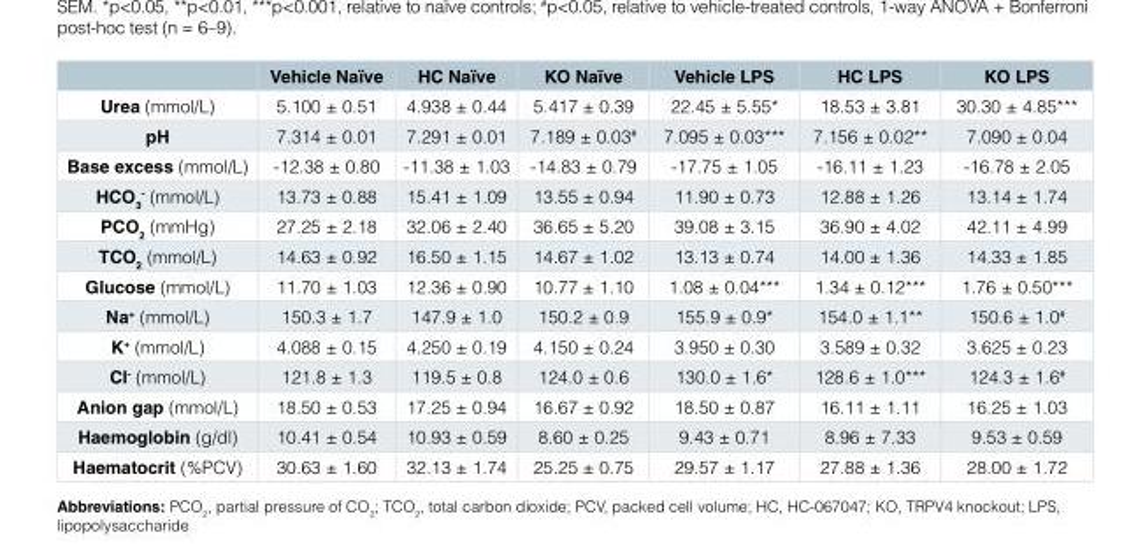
<table><thead><tr><td></td><td>Vehicle Naïve</td><td>HC Naïve</td><td>KO Naïve</td><td>Vehicle LPS</td><td>HC LPS</td><td>KO LPS</td></tr></thead><tbody><tr><td>Urea (mmol/L)</td><td>5.100 ± 0.51</td><td>4.938 ± 0.44</td><td>5.417 ± 0.39</td><td>22.45 ± 5.55*</td><td>18.53 ± 3.81</td><td>30.30 ± 4.85***</td></tr><tr><td>pH</td><td>7.314 ± 0.01</td><td>7.291 ± 0.01</td><td>7.189 ± 0.03<sup>#</sup></td><td>7.095 ± 0.03***</td><td>7.156 ± 0.02**</td><td>7.090 ± 0.04</td></tr><tr><td>Base excess (mmol/L)</td><td>-12.38 ± 0.80</td><td>-11.38 ± 1.03</td><td>-14.83 ± 0.79</td><td>-17.75 ± 1.05</td><td>-16.11 ± 1.23</td><td>-16.78 ± 2.05</td></tr><tr><td>HCO<sub>3</sub> <sup>-</sup> (mmol/L)</td><td>13.73 ± 0.88</td><td>15.41 ± 1.09</td><td>13.55 ± 0.94</td><td>11.90 ± 0.73</td><td>12.88 ± 1.26</td><td>13.14 ± 1.74</td></tr><tr><td>PCO<sub>2</sub> (mmHg)</td><td>27.25 ± 2.18</td><td>32.06 ± 2.40</td><td>36.65 ± 5.20</td><td>39.08 ± 3.15</td><td>36.90 ± 4.02</td><td>42.11 ± 4.99</td></tr><tr><td>TCO<sub>2</sub> (mmol/L)</td><td>14.63 ± 0.92</td><td>16.50 ± 1.15</td><td>14.67 ± 1.02</td><td>13.13 ± 0.74</td><td>14.00 ± 1.36</td><td>14.33 ± 1.85</td></tr><tr><td>Glucose (mmol/L)</td><td>11.70 ± 1.03</td><td>12.36 ± 0.90</td><td>10.77 ± 1.10</td><td>1.08 ± 0.04***</td><td>1.34 ± 0.12***</td><td>1.76 ± 0.50***</td></tr><tr><td>Na<sup>+</sup> (mmol/L)</td><td>150.3 ± 1.7</td><td>147.9 ± 1.0</td><td>150.2 ± 0.9</td><td>155.9 ± 0.9*</td><td>154.0 ± 1.1**</td><td>150.6 ± 1.0<sup>#</sup></td></tr><tr><td>K<sup>+</sup> (mmol/L)</td><td>4.088 ± 0.15</td><td>4.250 ± 0.19</td><td>4.150 ± 0.24</td><td>3.950 ± 0.30</td><td>3.589 ± 0.32</td><td>3.625 ± 0.23</td></tr><tr><td>Cl<sup>-</sup> (mmol/L)</td><td>121.8 ± 1.3</td><td>119.5 ± 0.8</td><td>124.0 ± 0.6</td><td>130.0 ± 1.6*</td><td>128.6 ± 1.0***</td><td>124.3 ± 1.6<sup>#</sup></td></tr><tr><td>Anion gap (mmol/L)</td><td>18.50 ± 0.53</td><td>17.25 ± 0.94</td><td>16.67 ± 0.92</td><td>18.50 ± 0.87</td><td>16.11 ± 1.11</td><td>16.25 ± 1.03</td></tr><tr><td>Haemoglobin (g/dl)</td><td>10.41 ± 0.54</td><td>10.93 ± 0.59</td><td>8.60 ± 0.25</td><td>9.43 ± 0.71</td><td>8.96 ± 7.33</td><td>9.53 ± 0.59</td></tr><tr><td>Haematocrit (%PCV)</td><td>30.63 ± 1.60</td><td>32.13 ± 1.74</td><td>25.25 ± 0.75</td><td>29.57 ± 1.17</td><td>27.88 ± 1.36</td><td>28.00 ± 1.72</td></tr></tbody></table>